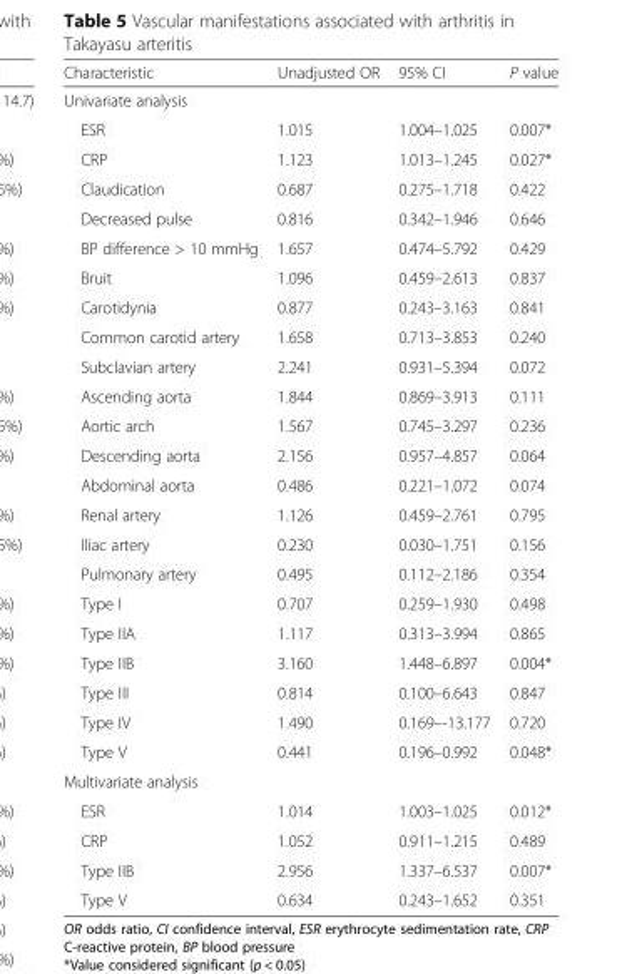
<table><thead><tr><td>Characteristic</td><td>Unadjusted OR</td><td>95% CI</td><td>P value</td></tr></thead><tbody><tr><td colspan="4">Univariate analysis</td></tr><tr><td>ESR</td><td>1.015</td><td>1.004–1.025</td><td>0.007*</td></tr><tr><td>CRP</td><td>1.123</td><td>1.013–1.245</td><td>0.027*</td></tr><tr><td>Claudication</td><td>0.687</td><td>0.275–1.718</td><td>0.422</td></tr><tr><td>Decreased pulse</td><td>0.816</td><td>0.342–1.946</td><td>0.646</td></tr><tr><td>BP difference &gt; 10 mmHg</td><td>1.657</td><td>0.474–5.792</td><td>0.429</td></tr><tr><td>Bruit</td><td>1.096</td><td>0.459–2.613</td><td>0.837</td></tr><tr><td>Carotidynia</td><td>0.877</td><td>0.243–3.163</td><td>0.841</td></tr><tr><td>Common carotid artery</td><td>1.658</td><td>0.713–3.853</td><td>0.240</td></tr><tr><td>Subclavian artery</td><td>2.241</td><td>0.931–5.394</td><td>0.072</td></tr><tr><td>Ascending aorta</td><td>1.844</td><td>0.869–3.913</td><td>0.111</td></tr><tr><td>Aortic arch</td><td>1.567</td><td>0.745–3.297</td><td>0.236</td></tr><tr><td>Descending aorta</td><td>2.156</td><td>0.957–4.857</td><td>0.064</td></tr><tr><td>Abdominal aorta</td><td>0.486</td><td>0.221–1.072</td><td>0.074</td></tr><tr><td>Renal artery</td><td>1.126</td><td>0.459–2.761</td><td>0.795</td></tr><tr><td>Iliac artery</td><td>0.230</td><td>0.030–1.751</td><td>0.156</td></tr><tr><td>Pulmonary artery</td><td>0.495</td><td>0.112–2.186</td><td>0.354</td></tr><tr><td>Type I</td><td>0.707</td><td>0.259–1.930</td><td>0.498</td></tr><tr><td>Type IIA</td><td>1.117</td><td>0.313–3.994</td><td>0.865</td></tr><tr><td>Type IIB</td><td>3.160</td><td>1.448–6.897</td><td>0.004*</td></tr><tr><td>Type III</td><td>0.814</td><td>0.100–6.643</td><td>0.847</td></tr><tr><td>Type IV</td><td>1.490</td><td>0.169–-13.177</td><td>0.720</td></tr><tr><td>Type V</td><td>0.441</td><td>0.196–0.992</td><td>0.048*</td></tr><tr><td colspan="4">Multivariate analysis</td></tr><tr><td>ESR</td><td>1.014</td><td>1.003–1.025</td><td>0.012*</td></tr><tr><td>CRP</td><td>1.052</td><td>0.911–1.215</td><td>0.489</td></tr><tr><td>Type IIB</td><td>2.956</td><td>1.337–6.537</td><td>0.007*</td></tr><tr><td>Type V</td><td>0.634</td><td>0.243–1.652</td><td>0.351</td></tr></tbody></table>